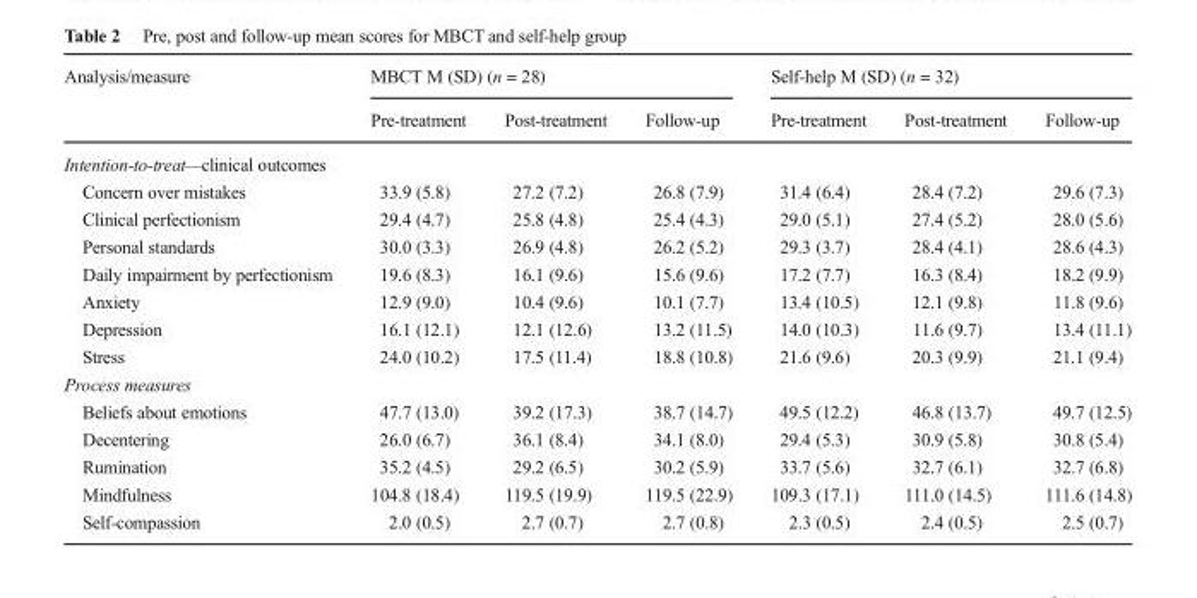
<table><thead><tr><td rowspan="2">Analysis/measure</td><td colspan="3">MBCT M (SD) (n = 28)</td><td colspan="3">Self-help M (SD) (n = 32)</td></tr><tr><td>Pre-treatment</td><td>Post-treatment</td><td>Follow-up</td><td>Pre-treatment</td><td>Post-treatment</td><td>Follow-up</td></tr></thead><tbody><tr><td colspan="7">Intention-to-treat—clinical outcomes</td></tr><tr><td>Concern over mistakes</td><td>33.9 (5.8)</td><td>27.2 (7.2)</td><td>26.8 (7.9)</td><td>31.4 (6.4)</td><td>28.4 (7.2)</td><td>29.6 (7.3)</td></tr><tr><td>Clinical perfectionism</td><td>29.4 (4.7)</td><td>25.8 (4.8)</td><td>25.4 (4.3)</td><td>29.0 (5.1)</td><td>27.4 (5.2)</td><td>28.0 (5.6)</td></tr><tr><td>Personal standards</td><td>30.0 (3.3)</td><td>26.9 (4.8)</td><td>26.2 (5.2)</td><td>29.3 (3.7)</td><td>28.4 (4.1)</td><td>28.6 (4.3)</td></tr><tr><td>Daily impairment by perfectionism</td><td>19.6 (8.3)</td><td>16.1 (9.6)</td><td>15.6 (9.6)</td><td>17.2 (7.7)</td><td>16.3 (8.4)</td><td>18.2 (9.9)</td></tr><tr><td>Anxiety</td><td>12.9 (9.0)</td><td>10.4 (9.6)</td><td>10.1 (7.7)</td><td>13.4 (10.5)</td><td>12.1 (9.8)</td><td>11.8 (9.6)</td></tr><tr><td>Depression</td><td>16.1 (12.1)</td><td>12.1 (12.6)</td><td>13.2 (11.5)</td><td>14.0 (10.3)</td><td>11.6 (9.7)</td><td>13.4 (11.1)</td></tr><tr><td>Stress</td><td>24.0 (10.2)</td><td>17.5 (11.4)</td><td>18.8 (10.8)</td><td>21.6 (9.6)</td><td>20.3 (9.9)</td><td>21.1 (9.4)</td></tr><tr><td colspan="7">Process measures</td></tr><tr><td>Beliefs about emotions</td><td>47.7 (13.0)</td><td>39.2 (17.3)</td><td>38.7 (14.7)</td><td>49.5 (12.2)</td><td>46.8 (13.7)</td><td>49.7 (12.5)</td></tr><tr><td>Decentering</td><td>26.0 (6.7)</td><td>36.1 (8.4)</td><td>34.1 (8.0)</td><td>29.4 (5.3)</td><td>30.9 (5.8)</td><td>30.8 (5.4)</td></tr><tr><td>Rumination</td><td>35.2 (4.5)</td><td>29.2 (6.5)</td><td>30.2 (5.9)</td><td>33.7 (5.6)</td><td>32.7 (6.1)</td><td>32.7 (6.8)</td></tr><tr><td>Mindfulness</td><td>104.8 (18.4)</td><td>119.5 (19.9)</td><td>119.5 (22.9)</td><td>109.3 (17.1)</td><td>111.0 (14.5)</td><td>111.6 (14.8)</td></tr><tr><td>Self-compassion</td><td>2.0 (0.5)</td><td>2.7 (0.7)</td><td>2.7 (0.8)</td><td>2.3 (0.5)</td><td>2.4 (0.5)</td><td>2.5 (0.7)</td></tr></tbody></table>